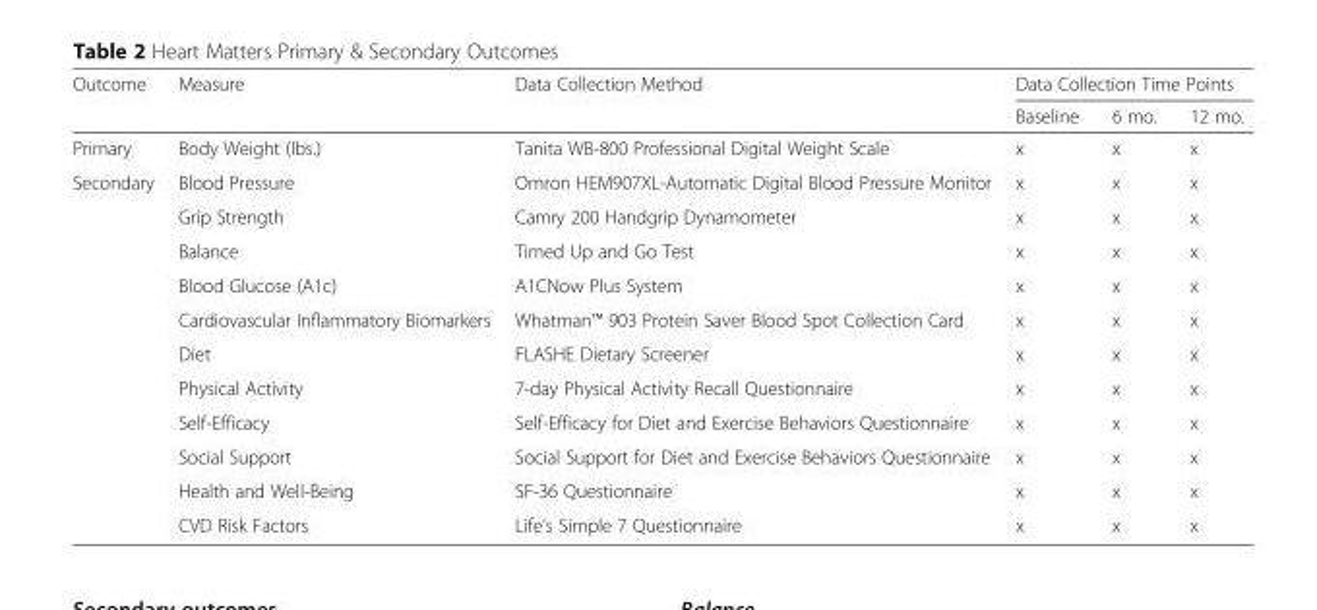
<table><thead><tr><td rowspan="2">Outcome</td><td rowspan="2">Measure</td><td rowspan="2">Data Collection Method</td><td colspan="3">Data Collection Time Points</td></tr><tr><td>Baseline</td><td>6 mo.</td><td>12 mo.</td></tr></thead><tbody><tr><td>Primary</td><td>Body Weight (lbs.)</td><td>Tanita WB-800 Professional Digital Weight Scale</td><td>x</td><td>x</td><td>x</td></tr><tr><td rowspan="11">Secondary</td><td>Blood Pressure</td><td>Omron HEM907XL-Automatic Digital Blood Pressure Monitor</td><td>x</td><td>x</td><td>x</td></tr><tr><td>Grip Strength</td><td>Camry 200 Handgrip Dynamometer</td><td>x</td><td>x</td><td>x</td></tr><tr><td>Balance</td><td>Timed Up and Go Test</td><td>x</td><td>x</td><td>x</td></tr><tr><td>Blood Glucose (A1c)</td><td>A1CNow Plus System</td><td>x</td><td>x</td><td>x</td></tr><tr><td>Cardiovascular Inflammatory Biomarkers</td><td>Whatman™ 903 Protein Saver Blood Spot Collection Card</td><td>x</td><td>x</td><td>x</td></tr><tr><td>Diet</td><td>FLASHE Dietary Screener</td><td>x</td><td>x</td><td>x</td></tr><tr><td>Physical Activity</td><td>7-day Physical Activity Recall Questionnaire</td><td>x</td><td>x</td><td>x</td></tr><tr><td>Self-Efficacy</td><td>Self-Efficacy for Diet and Exercise Behaviors Questionnaire</td><td>x</td><td>x</td><td>x</td></tr><tr><td>Social Support</td><td>Social Support for Diet and Exercise Behaviors Questionnaire</td><td>x</td><td>x</td><td>x</td></tr><tr><td>Health and Well-Being</td><td>SF-36 Questionnaire</td><td>x</td><td>x</td><td>x</td></tr><tr><td>CVD Risk Factors</td><td>Life’s Simple 7 Questionnaire</td><td>x</td><td>x</td><td>x</td></tr></tbody></table>